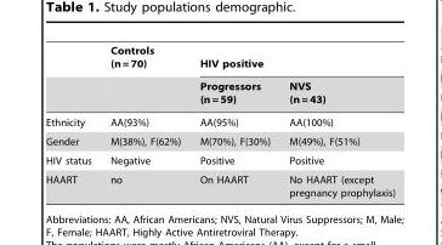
<table><thead><tr><td rowspan="2"></td><td rowspan="2">Controls (n = 70)</td><td colspan="2">HIV positive</td></tr><tr><td>Progressors (n = 59)</td><td>NVS (n = 43)</td></tr></thead><tbody><tr><td>Ethnicity</td><td>AA(93%)</td><td>AA(95%)</td><td>AA(100%)</td></tr><tr><td>Gender</td><td>M(38%), F(62%)</td><td>M(70%), F(30%)</td><td>M(49%), F(51%)</td></tr><tr><td>HIV status</td><td>Negative</td><td>Positive</td><td>Positive</td></tr><tr><td>HAART</td><td>no</td><td>On HAART</td><td>No HAART (except pregnancy prophylaxis)</td></tr></tbody></table>